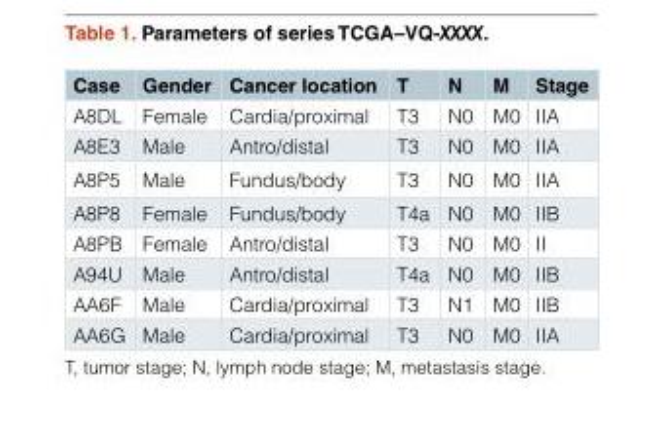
<table><thead><tr><td>Case</td><td>Gender</td><td>Cancer location</td><td>T</td><td>N</td><td>M</td><td>Stage</td></tr></thead><tbody><tr><td>A8DL</td><td>Female</td><td>Cardia/proximal</td><td>T3</td><td>N0</td><td>M0</td><td>IIA</td></tr><tr><td>A8E3</td><td>Male</td><td>Antro/distal</td><td>T3</td><td>N0</td><td>M0</td><td>IIA</td></tr><tr><td>A8P5</td><td>Male</td><td>Fundus/body</td><td>T3</td><td>N0</td><td>M0</td><td>IIA</td></tr><tr><td>A8P8</td><td>Female</td><td>Fundus/body</td><td>T4a</td><td>N0</td><td>M0</td><td>IIB</td></tr><tr><td>A8PB</td><td>Female</td><td>Antro/distal</td><td>T3</td><td>N0</td><td>M0</td><td>II</td></tr><tr><td>A94U</td><td>Male</td><td>Antro/distal</td><td>T4a</td><td>N0</td><td>M0</td><td>IIB</td></tr><tr><td>AA6F</td><td>Male</td><td>Cardia/proximal</td><td>T3</td><td>N1</td><td>M0</td><td>IIB</td></tr><tr><td>AA6G</td><td>Male</td><td>Cardia/proximal</td><td>T3</td><td>N0</td><td>M0</td><td>IIA</td></tr></tbody></table>